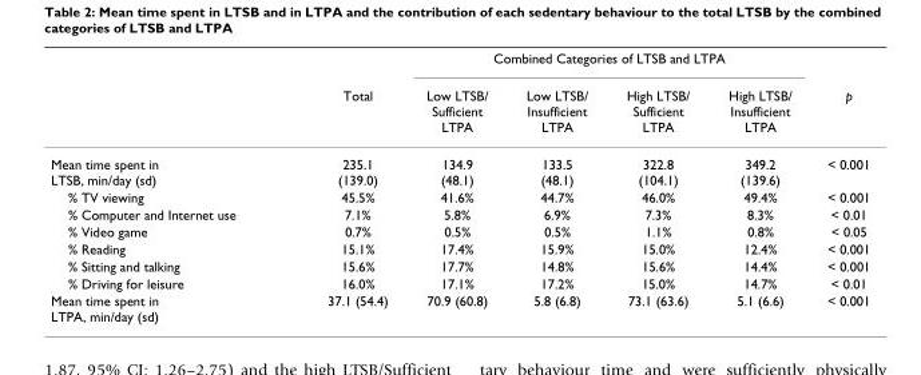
<table><thead><tr><td rowspan="2"></td><td rowspan="2">Total</td><td colspan="4">Combined Categories of LTSB and LTPA</td><td rowspan="2">p</td></tr><tr><td>Low LTSB/ Sufficient LTPA</td><td>Low LTSB/ Insufficient LTPA</td><td>High LTSB/ Sufficient LTPA</td><td>High LTSB/ Insufficient LTPA</td></tr></thead><tbody><tr><td>Mean time spent in LTSB, min/day (sd)</td><td>235.1 (139.0)</td><td>134.9 (48.1)</td><td>133.5 (48.1)</td><td>322.8 (104.1)</td><td>349.2 (139.6)</td><td>&lt; 0.001</td></tr><tr><td>% TV viewing</td><td>45.5%</td><td>41.6%</td><td>44.7%</td><td>46.0%</td><td>49.4%</td><td>&lt; 0.001</td></tr><tr><td>% Computer and Internet use</td><td>7.1%</td><td>5.8%</td><td>6.9%</td><td>7.3%</td><td>8.3%</td><td>&lt; 0.01</td></tr><tr><td>% Video game</td><td>0.7%</td><td>0.5%</td><td>0.5%</td><td>1.1%</td><td>0.8%</td><td>&lt; 0.05</td></tr><tr><td>% Reading</td><td>15.1%</td><td>17.4%</td><td>15.9%</td><td>15.0%</td><td>12.4%</td><td>&lt; 0.001</td></tr><tr><td>% Sitting and talking</td><td>15.6%</td><td>17.7%</td><td>14.8%</td><td>15.6%</td><td>14.4%</td><td>&lt; 0.001</td></tr><tr><td>% Driving for leisure</td><td>16.0%</td><td>17.1%</td><td>17.2%</td><td>15.0%</td><td>14.7%</td><td>&lt; 0.01</td></tr><tr><td>Mean time spent in LTPA, min/day (sd)</td><td>37.1 (54.4)</td><td>70.9 (60.8)</td><td>5.8 (6.8)</td><td>73.1 (63.6)</td><td>5.1 (6.6)</td><td>&lt; 0.001</td></tr></tbody></table>